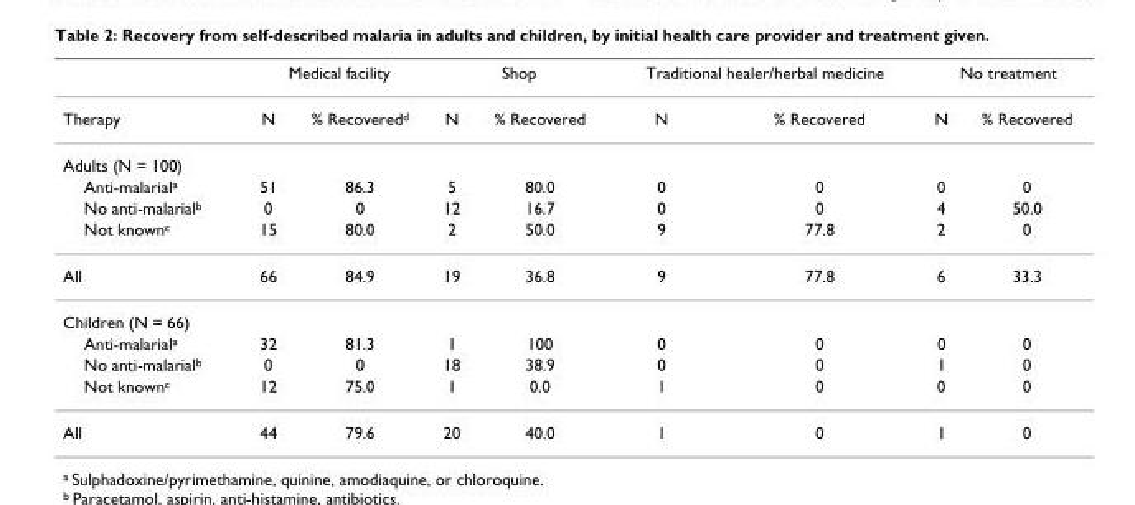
<table><thead><tr><td rowspan="2">Therapy</td><td colspan="2">Medical facility</td><td colspan="2">Shop</td><td colspan="2">Traditional healer/herbal medicine</td><td colspan="2">No treatment</td></tr><tr><td>N</td><td>% Recovered<sup>d</sup></td><td>N</td><td>% Recovered</td><td>N</td><td>% Recovered</td><td>N</td><td>% Recovered</td></tr></thead><tbody><tr><td colspan="9">Adults (N = 100)</td></tr><tr><td>Anti-malarial<sup>a</sup></td><td>51</td><td>86.3</td><td>5</td><td>80.0</td><td>0</td><td>0</td><td>0</td><td>0</td></tr><tr><td>No anti-malarial<sup>b</sup></td><td>0</td><td>0</td><td>12</td><td>16.7</td><td>0</td><td>0</td><td>4</td><td>50.0</td></tr><tr><td>Not known<sup>c</sup></td><td>15</td><td>80.0</td><td>2</td><td>50.0</td><td>9</td><td>77.8</td><td>2</td><td>0</td></tr><tr><td>All</td><td>66</td><td>84.9</td><td>19</td><td>36.8</td><td>9</td><td>77.8</td><td>6</td><td>33.3</td></tr><tr><td colspan="9">Children (N = 66)</td></tr><tr><td>Anti-malarial<sup>a</sup></td><td>32</td><td>81.3</td><td>1</td><td>100</td><td>0</td><td>0</td><td>0</td><td>0</td></tr><tr><td>No anti-malarial<sup>b</sup></td><td>0</td><td>0</td><td>18</td><td>38.9</td><td>0</td><td>0</td><td>1</td><td>0</td></tr><tr><td>Not known<sup>c</sup></td><td>12</td><td>75.0</td><td>1</td><td>0.0</td><td>1</td><td>0</td><td>0</td><td>0</td></tr><tr><td>All</td><td>44</td><td>79.6</td><td>20</td><td>40.0</td><td>1</td><td>0</td><td>1</td><td>0</td></tr></tbody></table>